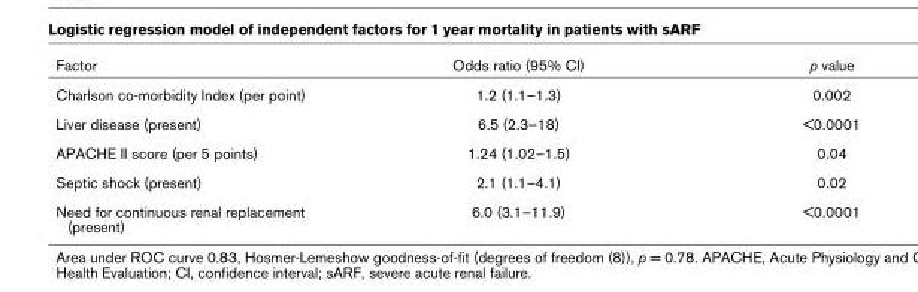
<table><thead><tr><td>Factor</td><td>Odds ratio (95% CI)</td><td>p value</td></tr></thead><tbody><tr><td>Charlson co-morbidity Index (per point)</td><td>1.2 (1.1–1.3)</td><td>0.002</td></tr><tr><td>Liver disease (present)</td><td>6.5 (2.3–18)</td><td>&lt;0.0001</td></tr><tr><td>APACHE II score (per 5 points)</td><td>1.24 (1.02–1.5)</td><td>0.04</td></tr><tr><td>Septic shock (present)</td><td>2.1 (1.1–4.1)</td><td>0.02</td></tr><tr><td>Need for continuous renal replacement (present)</td><td>6.0 (3.1–11.9)</td><td>&lt;0.0001</td></tr></tbody></table>